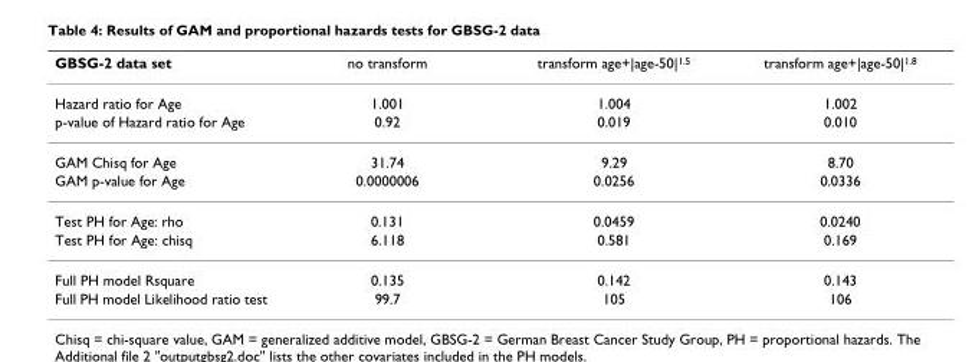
<table><thead><tr><td>GBSG-2 data set</td><td>no transform</td><td>transform age+|age-50|1.5</td><td>transform age+|age-50|1.8</td></tr></thead><tbody><tr><td>Hazard ratio for Age</td><td>1.001</td><td>1.004</td><td>1.002</td></tr><tr><td>p-value of Hazard ratio for Age</td><td>0.92</td><td>0.019</td><td>0.010</td></tr><tr><td>GAM Chisq for Age</td><td>31.74</td><td>9.29</td><td>8.70</td></tr><tr><td>GAM p-value for Age</td><td>0.0000006</td><td>0.0256</td><td>0.0336</td></tr><tr><td>Test PH for Age: rho</td><td>0.131</td><td>0.0459</td><td>0.0240</td></tr><tr><td>Test PH for Age: chisq</td><td>6.118</td><td>0.581</td><td>0.169</td></tr><tr><td>Full PH model Rsquare</td><td>0.135</td><td>0.142</td><td>0.143</td></tr><tr><td>Full PH model Likelihood ratio test</td><td>99.7</td><td>105</td><td>106</td></tr></tbody></table>